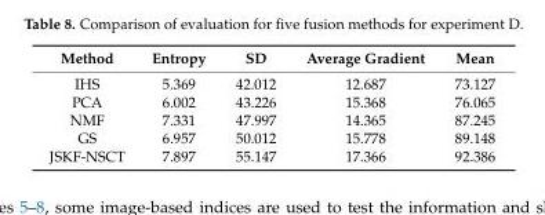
<table><thead><tr><td>Method</td><td>Entropy</td><td>SD</td><td>Average Gradient</td><td>Mean</td></tr></thead><tbody><tr><td>IHS</td><td>5.369</td><td>42.012</td><td>12.687</td><td>73.127</td></tr><tr><td>PCA</td><td>6.002</td><td>43.226</td><td>15.368</td><td>76.065</td></tr><tr><td>NMF</td><td>7.331</td><td>47.997</td><td>14.365</td><td>87.245</td></tr><tr><td>GS</td><td>6.957</td><td>50.012</td><td>15.778</td><td>89.148</td></tr><tr><td>JSKF-NSCT</td><td>7.897</td><td>55.147</td><td>17.366</td><td>92.386</td></tr></tbody></table>